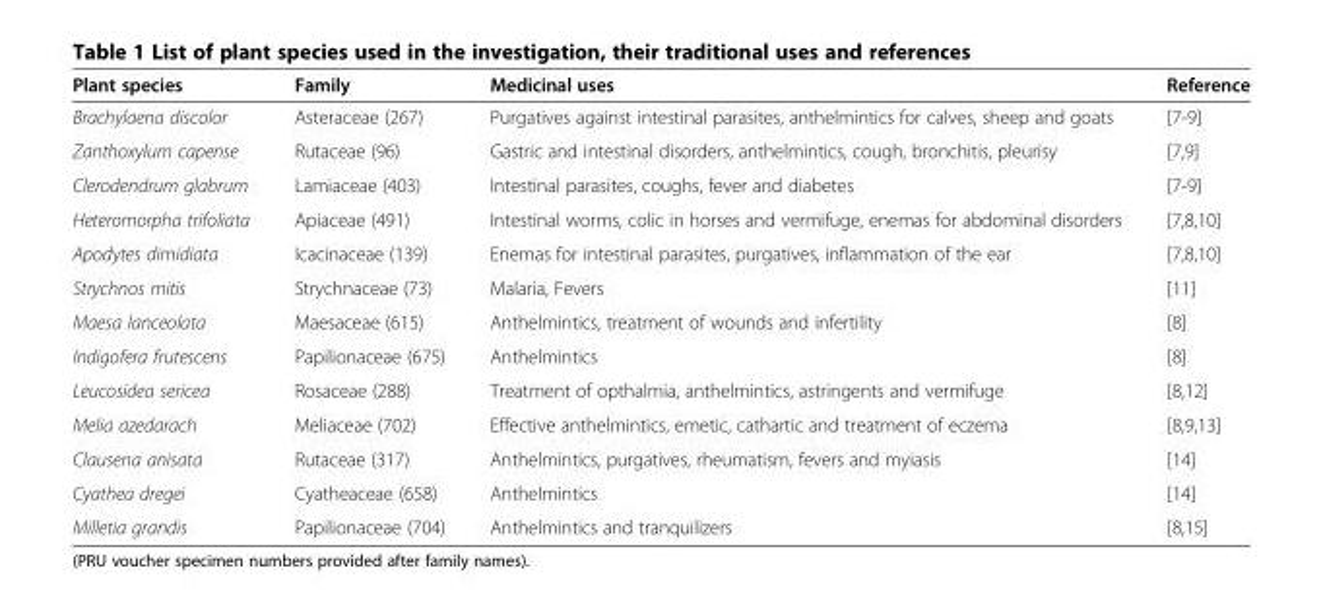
<table><thead><tr><td>Plant species</td><td>Family</td><td>Medicinal uses</td><td>Reference</td></tr></thead><tbody><tr><td>Brachylaena discolor</td><td>Asteraceae (267)</td><td>Purgatives against intestinal parasites, anthelmintics for calves, sheep and goats</td><td>[7-9]</td></tr><tr><td>Zanthoxylum capense</td><td>Rutaceae (96)</td><td>Gastric and intestinal disorders, anthelmintics, cough, bronchitis, pleurisy</td><td>[7,9]</td></tr><tr><td>Clerodendrum glabrum</td><td>Lamiaceae (403)</td><td>Intestinal parasites, coughs, fever and diabetes</td><td>[7-9]</td></tr><tr><td>Heteromorpha trifoliata</td><td>Apiaceae (491)</td><td>Intestinal worms, colic in horses and vermifuge, enemas for abdominal disorders</td><td>[7,8,10]</td></tr><tr><td>Apodytes dimidiata</td><td>Icacinaceae (139)</td><td>Enemas for intestinal parasites, purgatives, inflammation of the ear</td><td>[7,8,10]</td></tr><tr><td>Strychnos mitis</td><td>Strychnaceae (73)</td><td>Malaria, Fevers</td><td>[11]</td></tr><tr><td>Maesa lanceolata</td><td>Maesaceae (615)</td><td>Anthelmintics, treatment of wounds and infertility</td><td>[8]</td></tr><tr><td>Indigofera frutescens</td><td>Papilionaceae (675)</td><td>Anthelmintics</td><td>[8]</td></tr><tr><td>Leucosidea sericea</td><td>Rosaceae (288)</td><td>Treatment of opthalmia, anthelmintics, astringents and vermifuge</td><td>[8,12]</td></tr><tr><td>Melia azedarach</td><td>Meliaceae (702)</td><td>Effective anthelmintics, emetic, cathartic and treatment of eczema</td><td>[8,9,13]</td></tr><tr><td>Clausena anisata</td><td>Rutaceae (317)</td><td>Anthelmintics, purgatives, rheumatism, fevers and myiasis</td><td>[14]</td></tr><tr><td>Cyathea dregei</td><td>Cyatheaceae (658)</td><td>Anthelmintics</td><td>[14]</td></tr><tr><td>Milletia grandis</td><td>Papilionaceae (704)</td><td>Anthelmintics and tranquilizers</td><td>[8,15]</td></tr></tbody></table>